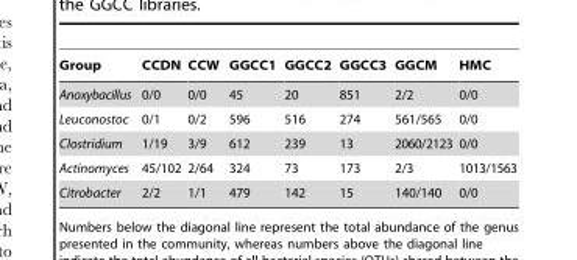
<table><thead><tr><td>Group</td><td>CCDN</td><td>CCW</td><td>GGCC1</td><td>GGCC2</td><td>GGCC3</td><td>GGCM</td><td>HMC</td></tr></thead><tbody><tr><td>Anoxybacillus</td><td>0/0</td><td>0/0</td><td>45</td><td>20</td><td>851</td><td>2/2</td><td>0/0</td></tr><tr><td>Leuconostoc</td><td>0/1</td><td>0/2</td><td>596</td><td>516</td><td>274</td><td>561/565</td><td>0/0</td></tr><tr><td>Clostridium</td><td>1/19</td><td>3/9</td><td>612</td><td>239</td><td>13</td><td>2060/2123</td><td>0/0</td></tr><tr><td>Actinomyces</td><td>45/102</td><td>2/64</td><td>324</td><td>73</td><td>173</td><td>2/3</td><td>1013/1563</td></tr><tr><td>Citrobacter</td><td>2/2</td><td>1/1</td><td>479</td><td>142</td><td>15</td><td>140/140</td><td>0/0</td></tr></tbody></table>